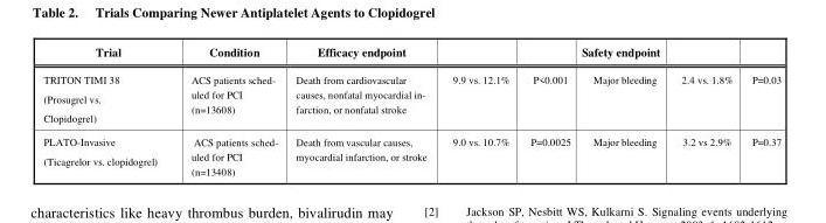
<table><thead><tr><td>Trial</td><td>Condition</td><td>Efficacy endpoint</td><td></td><td></td><td>Safety endpoint</td><td></td><td></td></tr></thead><tbody><tr><td>TRITON TIMI 38 (Prosugrel vs. Clopidogrel)</td><td>ACS patients sched- uled for PCI (n=13608)</td><td>Death from cardiovascular causes, nonfatal myocardial in- farction, or nonfatal stroke</td><td>9.9 vs. 12.1%</td><td>P&lt;0.001</td><td>Major bleeding</td><td>2.4 vs. 1.8%</td><td>P=0.03</td></tr><tr><td>PLATO-Invasive (Ticagrelor vs. clopidogrel)</td><td>ACS patients sched- uled for PCI (n=13408)</td><td>Death from vascular causes, myocardial infarction, or stroke</td><td>9.0 vs. 10.7%</td><td>P=0.0025</td><td>Major bleeding</td><td>3.2 vs 2.9%</td><td>P=0.37</td></tr></tbody></table>